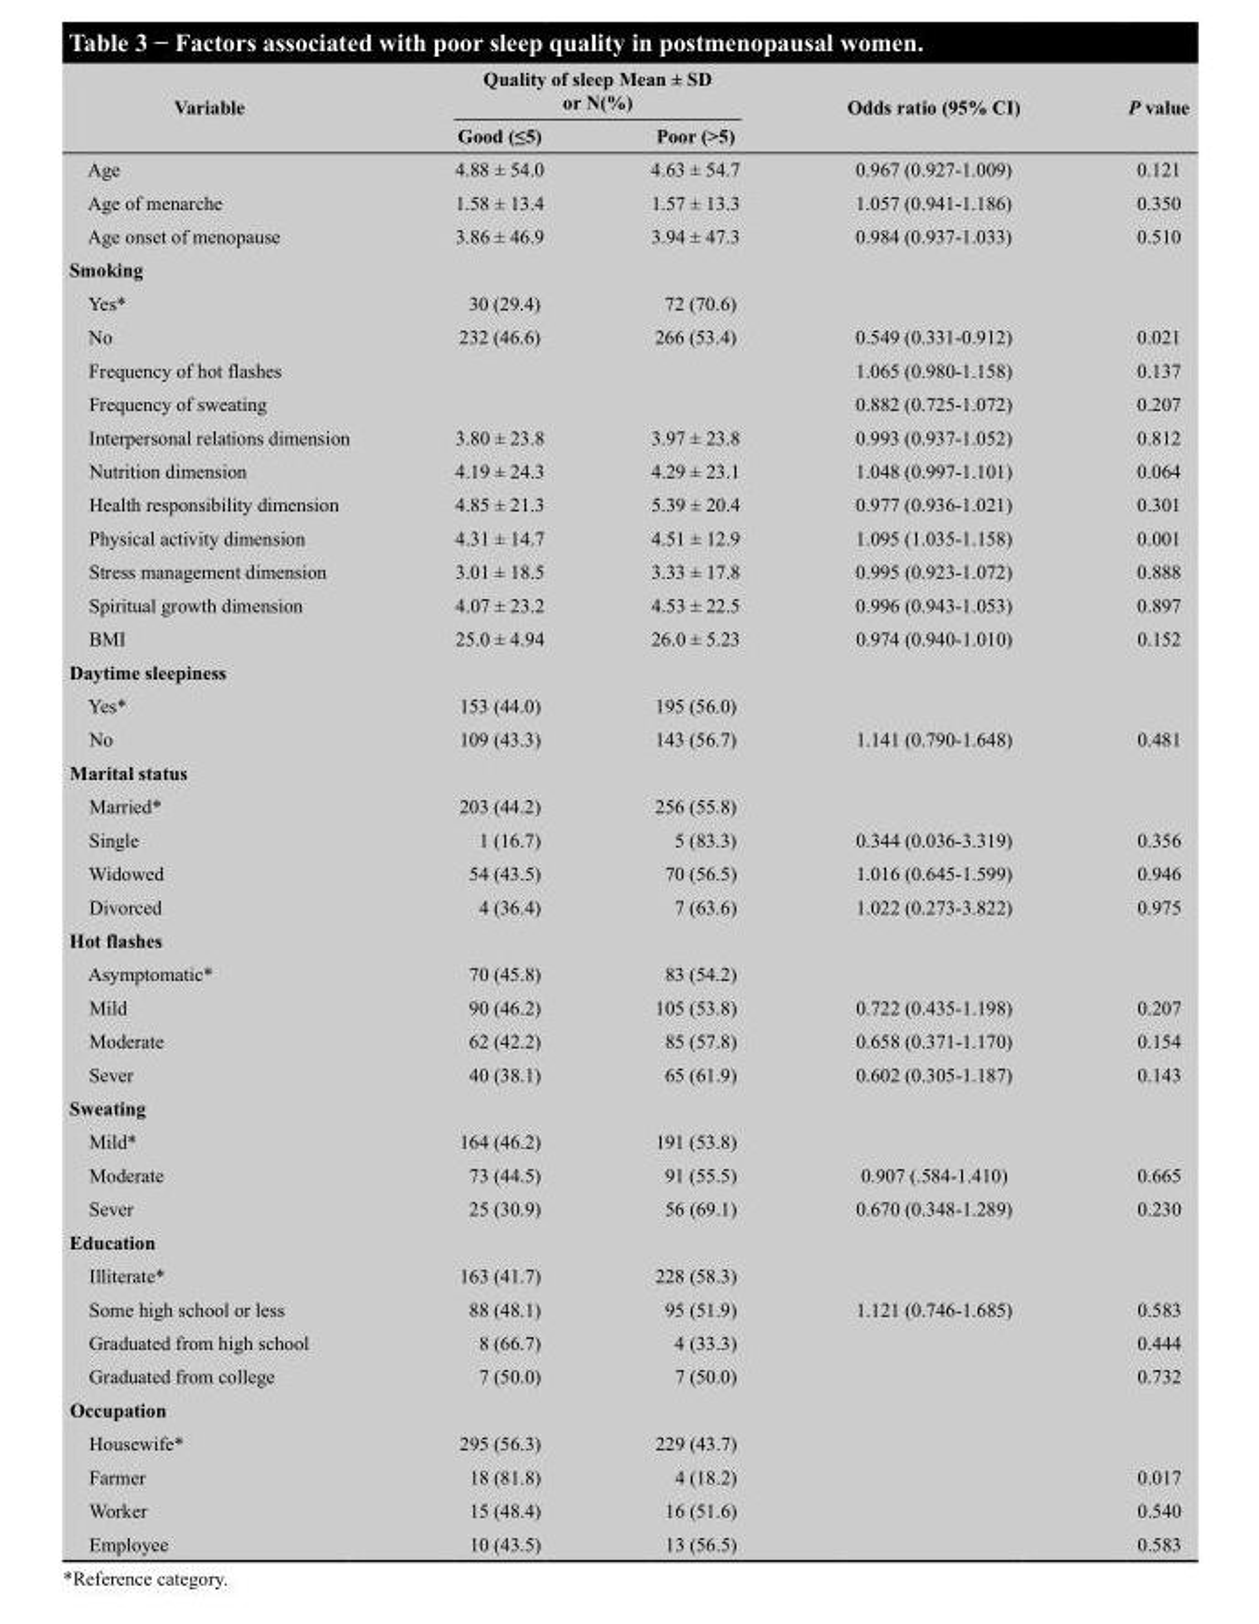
<table><thead><tr><td rowspan="2">Variable</td><td colspan="2">Quality of sleep Mean ± SD or N(%)</td><td rowspan="2">Odds ratio (95% CI)</td><td rowspan="2">P value</td></tr><tr><td>Good (≤5)</td><td>Poor (&gt;5)</td></tr></thead><tbody><tr><td>Age</td><td>4.88 ± 54.0</td><td>4.63 ± 54.7</td><td>0.967 (0.927-1.009)</td><td>0.121</td></tr><tr><td>Age of menarche</td><td>1.58 ± 13.4</td><td>1.57 ± 13.3</td><td>1.057 (0.941-1.186)</td><td>0.350</td></tr><tr><td>Age onset of menopause</td><td>3.86 ± 46.9</td><td>3.94 ± 47.3</td><td>0.984 (0.937-1.033)</td><td>0.510</td></tr><tr><td colspan="5">Smoking</td></tr><tr><td>Yes*</td><td>30 (29.4)</td><td>72 (70.6)</td><td></td><td></td></tr><tr><td>No</td><td>232 (46.6)</td><td>266 (53.4)</td><td>0.549 (0.331-0.912)</td><td>0.021</td></tr><tr><td>Frequency of hot flashes</td><td></td><td></td><td>1.065 (0.980-1.158)</td><td>0.137</td></tr><tr><td>Frequency of sweating</td><td></td><td></td><td>0.882 (0.725-1.072)</td><td>0.207</td></tr><tr><td>Interpersonal relations dimension</td><td>3.80 ± 23.8</td><td>3.97 ± 23.8</td><td>0.993 (0.937-1.052)</td><td>0.812</td></tr><tr><td>Nutrition dimension</td><td>4.19 ± 24.3</td><td>4.29 ± 23.1</td><td>1.048 (0.997-1.101)</td><td>0.064</td></tr><tr><td>Health responsibility dimension</td><td>4.85 ± 21.3</td><td>5.39 ± 20.4</td><td>0.977 (0.936-1.021)</td><td>0.301</td></tr><tr><td>Physical activity dimension</td><td>4.31 ± 14.7</td><td>4.51 ± 12.9</td><td>1.095 (1.035-1.158)</td><td>0.001</td></tr><tr><td>Stress management dimension</td><td>3.01 ± 18.5</td><td>3.33 ± 17.8</td><td>0.995 (0.923-1.072)</td><td>0.888</td></tr><tr><td>Spiritual growth dimension</td><td>4.07 ± 23.2</td><td>4.53 ± 22.5</td><td>0.996 (0.943-1.053)</td><td>0.897</td></tr><tr><td>BMI</td><td>25.0 ± 4.94</td><td>26.0 ± 5.23</td><td>0.974 (0.940-1.010)</td><td>0.152</td></tr><tr><td colspan="5">Daytime sleepiness</td></tr><tr><td>Yes*</td><td>153 (44.0)</td><td>195 (56.0)</td><td></td><td></td></tr><tr><td>No</td><td>109 (43.3)</td><td>143 (56.7)</td><td>1.141 (0.790-1.648)</td><td>0.481</td></tr><tr><td colspan="5">Marital status</td></tr><tr><td>Married*</td><td>203 (44.2)</td><td>256 (55.8)</td><td></td><td></td></tr><tr><td>Single</td><td>1 (16.7)</td><td>5 (83.3)</td><td>0.344 (0.036-3.319)</td><td>0.356</td></tr><tr><td>Widowed</td><td>54 (43.5)</td><td>70 (56.5)</td><td>1.016 (0.645-1.599)</td><td>0.946</td></tr><tr><td>Divorced</td><td>4 (36.4)</td><td>7 (63.6)</td><td>1.022 (0.273-3.822)</td><td>0.975</td></tr><tr><td colspan="5">Hot flashes</td></tr><tr><td>Asymptomatic*</td><td>70 (45.8)</td><td>83 (54.2)</td><td></td><td></td></tr><tr><td>Mild</td><td>90 (46.2)</td><td>105 (53.8)</td><td>0.722 (0.435-1.198)</td><td>0.207</td></tr><tr><td>Moderate</td><td>62 (42.2)</td><td>85 (57.8)</td><td>0.658 (0.371-1.170)</td><td>0.154</td></tr><tr><td>Sever</td><td>40 (38.1)</td><td>65 (61.9)</td><td>0.602 (0.305-1.187)</td><td>0.143</td></tr><tr><td colspan="5">Sweating</td></tr><tr><td>Mild*</td><td>164 (46.2)</td><td>191 (53.8)</td><td></td><td></td></tr><tr><td>Moderate</td><td>73 (44.5)</td><td>91 (55.5)</td><td>0.907 (.584-1.410)</td><td>0.665</td></tr><tr><td>Sever</td><td>25 (30.9)</td><td>56 (69.1)</td><td>0.670 (0.348-1.289)</td><td>0.230</td></tr><tr><td colspan="5">Education</td></tr><tr><td>Illiterate*</td><td>163 (41.7)</td><td>228 (58.3)</td><td></td><td></td></tr><tr><td>Some high school or less</td><td>88 (48.1)</td><td>95 (51.9)</td><td>1.121 (0.746-1.685)</td><td>0.583</td></tr><tr><td>Graduated from high school</td><td>8 (66.7)</td><td>4 (33.3)</td><td></td><td>0.444</td></tr><tr><td>Graduated from college</td><td>7 (50.0)</td><td>7 (50.0)</td><td></td><td>0.732</td></tr><tr><td colspan="5">Occupation</td></tr><tr><td>Housewife*</td><td>295 (56.3)</td><td>229 (43.7)</td><td></td><td></td></tr><tr><td>Farmer</td><td>18 (81.8)</td><td>4 (18.2)</td><td></td><td>0.017</td></tr><tr><td>Worker</td><td>15 (48.4)</td><td>16 (51.6)</td><td></td><td>0.540</td></tr><tr><td>Employee</td><td>10 (43.5)</td><td>13 (56.5)</td><td></td><td>0.583</td></tr></tbody></table>